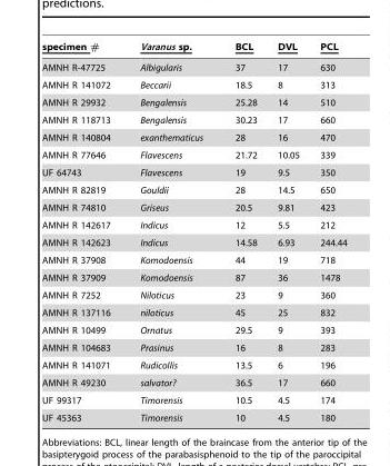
<table><thead><tr><td>specimen #</td><td>Varanus sp.</td><td>BCL</td><td>DVL</td><td>PCL</td></tr></thead><tbody><tr><td>AMNH R-47725</td><td>Albigularis</td><td>37</td><td>17</td><td>630</td></tr><tr><td>AMNH R 141072</td><td>Beccarii</td><td>18.5</td><td>8</td><td>313</td></tr><tr><td>AMNH R 29932</td><td>Bengalensis</td><td>25.28</td><td>14</td><td>510</td></tr><tr><td>AMNH R 118713</td><td>Bengalensis</td><td>30.23</td><td>17</td><td>660</td></tr><tr><td>AMNH R 140804</td><td>exanthematicus</td><td>28</td><td>16</td><td>470</td></tr><tr><td>AMNH R 77646</td><td>Flavescens</td><td>21.72</td><td>10.05</td><td>339</td></tr><tr><td>UF 64743</td><td>Flavescens</td><td>19</td><td>9.5</td><td>350</td></tr><tr><td>AMNH R 82819</td><td>Gouldii</td><td>28</td><td>14.5</td><td>650</td></tr><tr><td>AMNH R 74810</td><td>Griseus</td><td>20.5</td><td>9.81</td><td>423</td></tr><tr><td>AMNH R 142617</td><td>Indicus</td><td>12</td><td>5.5</td><td>212</td></tr><tr><td>AMNH R 142623</td><td>Indicus</td><td>14.58</td><td>6.93</td><td>244.44</td></tr><tr><td>AMNH R 37908</td><td>Komodoensis</td><td>44</td><td>19</td><td>718</td></tr><tr><td>AMNH R 37909</td><td>Komodoensis</td><td>87</td><td>36</td><td>1478</td></tr><tr><td>AMNH R 7252</td><td>Niloticus</td><td>23</td><td>9</td><td>360</td></tr><tr><td>AMNH R 137116</td><td>niloticus</td><td>45</td><td>25</td><td>832</td></tr><tr><td>AMNH R 10499</td><td>Ornatus</td><td>29.5</td><td>9</td><td>393</td></tr><tr><td>AMNH R 104683</td><td>Prasinus</td><td>16</td><td>8</td><td>283</td></tr><tr><td>AMNH R 141071</td><td>Rudicollis</td><td>13.5</td><td>6</td><td>196</td></tr><tr><td>AMNH R 49230</td><td>salvator?</td><td>36.5</td><td>17</td><td>660</td></tr><tr><td>UF 99317</td><td>Timorensis</td><td>10.5</td><td>4.5</td><td>174</td></tr><tr><td>UF 45363</td><td>Timorensis</td><td>10</td><td>4.5</td><td>180</td></tr></tbody></table>